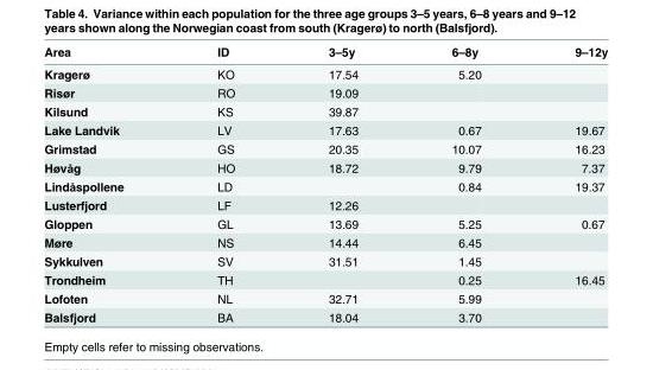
<table><thead><tr><td>Area</td><td>ID</td><td>3–5y</td><td>6–8y</td><td>9–12y</td></tr></thead><tbody><tr><td>Kragerø</td><td>KO</td><td>17.54</td><td>5.20</td><td></td></tr><tr><td>Risør</td><td>RO</td><td>19.09</td><td></td><td></td></tr><tr><td>Kilsund</td><td>KS</td><td>39.87</td><td></td><td></td></tr><tr><td>Lake Landvik</td><td>LV</td><td>17.63</td><td>0.67</td><td>19.67</td></tr><tr><td>Grimstad</td><td>GS</td><td>20.35</td><td>10.07</td><td>16.23</td></tr><tr><td>Høvåg</td><td>HO</td><td>18.72</td><td>9.79</td><td>7.37</td></tr><tr><td>Lindåspollene</td><td>LD</td><td></td><td>0.84</td><td>19.37</td></tr><tr><td>Lusterfjord</td><td>LF</td><td>12.26</td><td></td><td></td></tr><tr><td>Gloppen</td><td>GL</td><td>13.69</td><td>5.25</td><td>0.67</td></tr><tr><td>Møre</td><td>NS</td><td>14.44</td><td>6.45</td><td></td></tr><tr><td>Sykkulven</td><td>SV</td><td>31.51</td><td>1.45</td><td></td></tr><tr><td>Trondheim</td><td>TH</td><td></td><td>0.25</td><td>16.45</td></tr><tr><td>Lofoten</td><td>NL</td><td>32.71</td><td>5.99</td><td></td></tr><tr><td>Balsfjord</td><td>BA</td><td>18.04</td><td>3.70</td><td></td></tr></tbody></table>